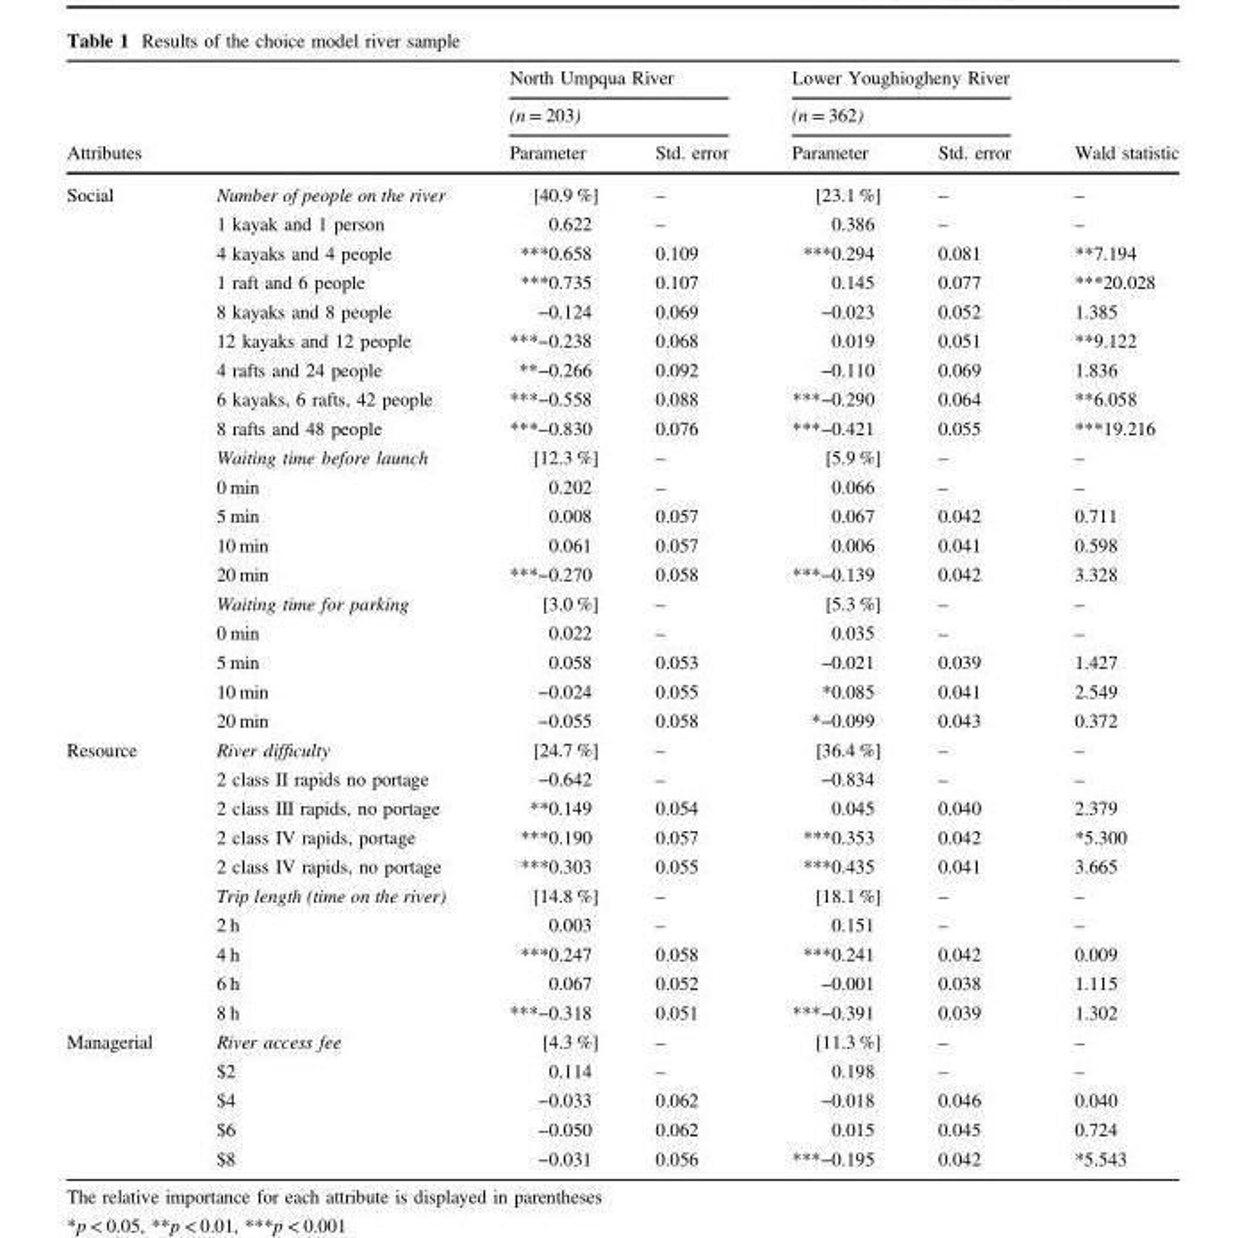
<table><thead><tr><td rowspan="3">Attributes</td><td rowspan="3"></td><td rowspan="2" colspan="2">North Umpqua River (n = 203)</td><td rowspan="2" colspan="2">Lower Youghiogheny River (n = 362)</td><td rowspan="3">Wald statistic</td></tr><tr></tr><tr><td>Parameter</td><td>Std. error</td><td>Parameter</td><td>Std. error</td></tr></thead><tbody><tr><td rowspan="19">Social</td><td>Number of people on the river</td><td>[40.9 %]</td><td>–</td><td>[23.1 %]</td><td>–</td><td>–</td></tr><tr><td>1 kayak and 1 person</td><td>0.622</td><td>–</td><td>0.386</td><td>–</td><td>–</td></tr><tr><td>4 kayaks and 4 people</td><td>***0.658</td><td>0.109</td><td>***0.294</td><td>0.081</td><td>**7.194</td></tr><tr><td>1 raft and 6 people</td><td>***0.735</td><td>0.107</td><td>0.145</td><td>0.077</td><td>***20.028</td></tr><tr><td>8 kayaks and 8 people</td><td>−0.124</td><td>0.069</td><td>−0.023</td><td>0.052</td><td>1.385</td></tr><tr><td>12 kayaks and 12 people</td><td>***−0.238</td><td>0.068</td><td>0.019</td><td>0.051</td><td>**9.122</td></tr><tr><td>4 rafts and 24 people</td><td>**−0.266</td><td>0.092</td><td>−0.110</td><td>0.069</td><td>1.836</td></tr><tr><td>6 kayaks, 6 rafts, 42 people</td><td>***−0.558</td><td>0.088</td><td>***−0.290</td><td>0.064</td><td>**6.058</td></tr><tr><td>8 rafts and 48 people</td><td>***−0.830</td><td>0.076</td><td>***−0.421</td><td>0.055</td><td>***19.216</td></tr><tr><td>Waiting time before launch</td><td>[12.3 %]</td><td>–</td><td>[5.9 %]</td><td>–</td><td>–</td></tr><tr><td>0 min</td><td>0.202</td><td>–</td><td>0.066</td><td>–</td><td>–</td></tr><tr><td>5 min</td><td>0.008</td><td>0.057</td><td>0.067</td><td>0.042</td><td>0.711</td></tr><tr><td>10 min</td><td>0.061</td><td>0.057</td><td>0.006</td><td>0.041</td><td>0.598</td></tr><tr><td>20 min</td><td>***−0.270</td><td>0.058</td><td>***−0.139</td><td>0.042</td><td>3.328</td></tr><tr><td>Waiting time for parking</td><td>[3.0 %]</td><td>–</td><td>[5.3 %]</td><td>–</td><td>–</td></tr><tr><td>0 min</td><td>0.022</td><td>–</td><td>0.035</td><td>–</td><td>–</td></tr><tr><td>5 min</td><td>0.058</td><td>0.053</td><td>−0.021</td><td>0.039</td><td>1.427</td></tr><tr><td>10 min</td><td>−0.024</td><td>0.055</td><td>*0.085</td><td>0.041</td><td>2.549</td></tr><tr><td>20 min</td><td>−0.055</td><td>0.058</td><td>*−0.099</td><td>0.043</td><td>0.372</td></tr><tr><td rowspan="10">Resource</td><td>River difficulty</td><td>[24.7 %]</td><td>–</td><td>[36.4 %]</td><td>–</td><td>–</td></tr><tr><td>2 class II rapids no portage</td><td>−0.642</td><td>–</td><td>−0.834</td><td>–</td><td>–</td></tr><tr><td>2 class III rapids, no portage</td><td>**0.149</td><td>0.054</td><td>0.045</td><td>0.040</td><td>2.379</td></tr><tr><td>2 class IV rapids, portage</td><td>***0.190</td><td>0.057</td><td>***0.353</td><td>0.042</td><td>*5.300</td></tr><tr><td>2 class IV rapids, no portage</td><td>***0.303</td><td>0.055</td><td>***0.435</td><td>0.041</td><td>3.665</td></tr><tr><td>Trip length (time on the river)</td><td>[14.8 %]</td><td>–</td><td>[18.1 %]</td><td>–</td><td>–</td></tr><tr><td>2 h</td><td>0.003</td><td>–</td><td>0.151</td><td>–</td><td>–</td></tr><tr><td>4 h</td><td>***0.247</td><td>0.058</td><td>***0.241</td><td>0.042</td><td>0.009</td></tr><tr><td>6 h</td><td>0.067</td><td>0.052</td><td>−0.001</td><td>0.038</td><td>1.115</td></tr><tr><td>8 h</td><td>***−0.318</td><td>0.051</td><td>***−0.391</td><td>0.039</td><td>1.302</td></tr><tr><td rowspan="5">Managerial</td><td>River access fee</td><td>[4.3 %]</td><td>–</td><td>[11.3 %]</td><td>–</td><td>–</td></tr><tr><td>$2</td><td>0.114</td><td>–</td><td>0.198</td><td>–</td><td>–</td></tr><tr><td>$4</td><td>−0.033</td><td>0.062</td><td>−0.018</td><td>0.046</td><td>0.040</td></tr><tr><td>$6</td><td>−0.050</td><td>0.062</td><td>0.015</td><td>0.045</td><td>0.724</td></tr><tr><td>$8</td><td>−0.031</td><td>0.056</td><td>***−0.195</td><td>0.042</td><td>*5.543</td></tr></tbody></table>